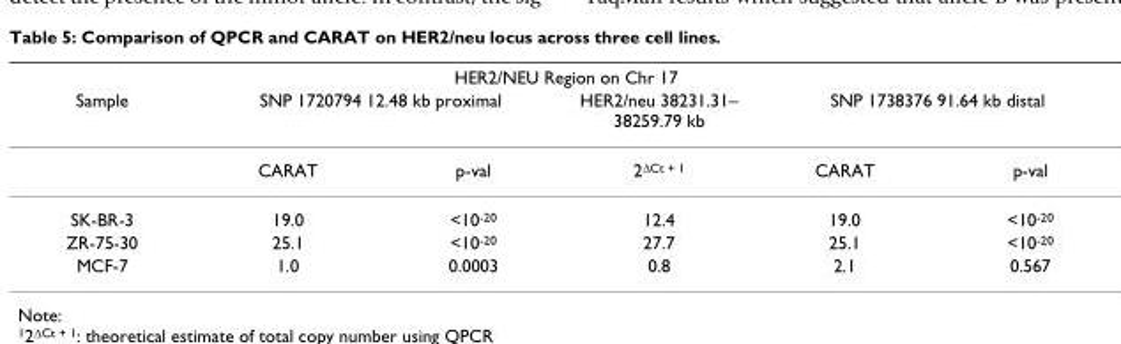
<table><thead><tr><td colspan="6">HER2/NEU Region on Chr 17</td></tr><tr><td rowspan="2">Sample</td><td colspan="2">SNP 1720794 12.48 kb proximal</td><td rowspan="2">HER2/neu 38231.31– 38259.79 kb 2∆Ct + 1</td><td colspan="2">SNP 1738376 91.64 kb distal</td></tr><tr><td>CARAT</td><td>p-val</td><td>CARAT</td><td>p-val</td></tr></thead><tbody><tr><td>SK-BR-3</td><td>19.0</td><td>&lt;10<sup>-20</sup></td><td>12.4</td><td>19.0</td><td>&lt;10<sup>-20</sup></td></tr><tr><td>ZR-75-30</td><td>25.1</td><td>&lt;10<sup>-20</sup></td><td>27.7</td><td>25.1</td><td>&lt;10<sup>-20</sup></td></tr><tr><td>MCF-7</td><td>1.0</td><td>0.0003</td><td>0.8</td><td>2.1</td><td>0.567</td></tr></tbody></table>